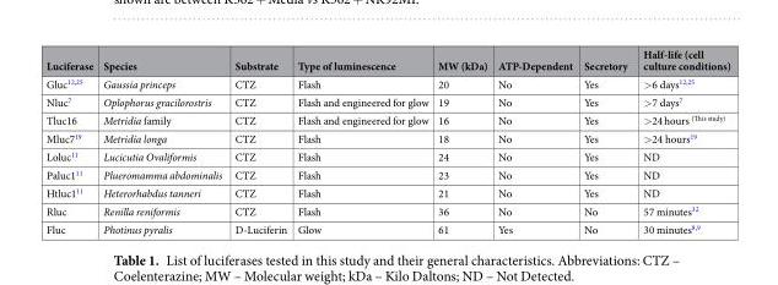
<table><thead><tr><td>Luciferase</td><td>Species</td><td>Substrate</td><td>Type of luminescence</td><td>MW (kDa)</td><td>ATP-Dependent</td><td>Secretory</td><td>Half-life (cell culture conditions)</td></tr></thead><tbody><tr><td>Gluc<sup>12,25</sup></td><td>Gaussia princeps</td><td>CTZ</td><td>Flash</td><td>20</td><td>No</td><td>Yes</td><td>&gt;6 days<sup>12,25</sup></td></tr><tr><td>Nluc<sup>7</sup></td><td>Oplophorus gracilorostris</td><td>CTZ</td><td>Flash and engineered for glow</td><td>19</td><td>No</td><td>Yes</td><td>&gt;7 days<sup>7</sup></td></tr><tr><td>Tluc16</td><td>Metridia family</td><td>CTZ</td><td>Flash and engineered for glow</td><td>16</td><td>No</td><td>Yes</td><td>&gt;24 hours <sup>(This study)</sup></td></tr><tr><td>Mluc7<sup>19</sup></td><td>Metridia longa</td><td>CTZ</td><td>Flash</td><td>18</td><td>No</td><td>Yes</td><td>&gt;24 hours<sup>19</sup></td></tr><tr><td>Loluc<sup>11</sup></td><td>Lucicutia Ovaliformis</td><td>CTZ</td><td>Flash</td><td>24</td><td>No</td><td>Yes</td><td>ND</td></tr><tr><td>Paluc1<sup>11</sup></td><td>Plueromamma abdominalis</td><td>CTZ</td><td>Flash</td><td>23</td><td>No</td><td>Yes</td><td>ND</td></tr><tr><td>Htluc1<sup>11</sup></td><td>Heterorhabdus tanneri</td><td>CTZ</td><td>Flash</td><td>21</td><td>No</td><td>Yes</td><td>ND</td></tr><tr><td>Rluc</td><td>Renilla reniformis</td><td>CTZ</td><td>Flash</td><td>36</td><td>No</td><td>No</td><td>57 minutes<sup>32</sup></td></tr><tr><td>Fluc</td><td>Photinus pyralis</td><td>D-Luciferin</td><td>Glow</td><td>61</td><td>Yes</td><td>No</td><td>30 minutes<sup>8,9</sup></td></tr></tbody></table>